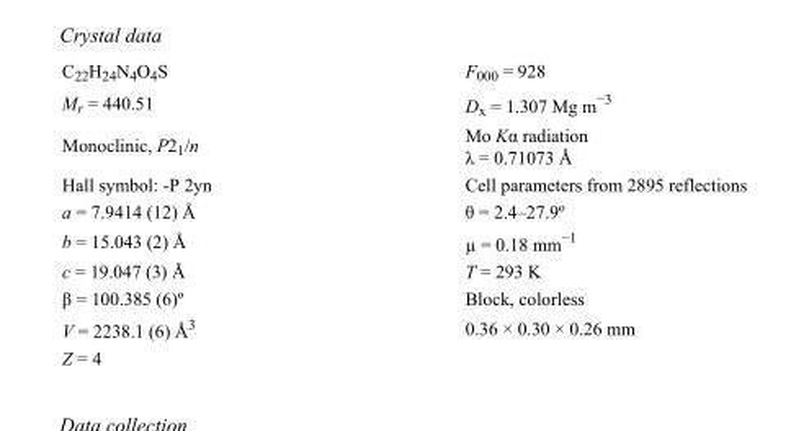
<table><tbody><tr><td>C<sub>22</sub>H<sub>24</sub>N<sub>4</sub>O<sub>4</sub>S</td><td>F000 = 928</td></tr><tr><td>M<sub>r</sub> = 440.51</td><td>D<sub>x</sub> = 1.307 Mg m<sup>−3</sup></td></tr><tr><td>Monoclinic, P2<sub>1</sub>/n</td><td>Mo Kα radiation λ = 0.71073 Å</td></tr><tr><td>Hall symbol: -P 2yn</td><td>Cell parameters from 2895 reflections</td></tr><tr><td>a = 7.9414 (12) Å</td><td>θ = 2.4–27.9º</td></tr><tr><td>b = 15.043 (2) Å</td><td>µ = 0.18 mm<sup>−1</sup></td></tr><tr><td>c = 19.047 (3) Å</td><td>T = 293 K</td></tr><tr><td>β = 100.385 (6)º</td><td>Block, colorless</td></tr><tr><td>V = 2238.1 (6) Å<sup>3</sup></td><td>0.36 × 0.30 × 0.26 mm</td></tr><tr><td>Z = 4</td><td></td></tr></tbody></table>